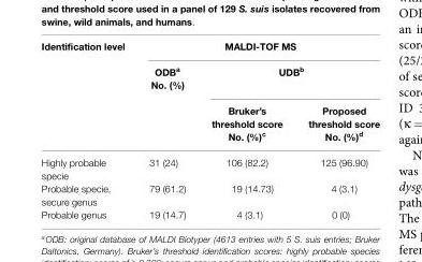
<table><thead><tr><td rowspan="4">Identification level</td><td colspan="3">MALDI-TOF MS</td></tr><tr><td rowspan="3">ODB<sup>a</sup> No. (%)</td><td colspan="2">UDB<sup>b</sup></td></tr><tr><td rowspan="2">Bruker’s threshold score No. (%)<sup>c</sup></td><td rowspan="2">Proposed threshold score No. (%)<sup>d</sup></td></tr><tr></tr></thead><tbody><tr><td>Highly probable specie</td><td>31 (24)</td><td>106 (82.2)</td><td>125 (96.90)</td></tr><tr><td>Probable specie, secure genus</td><td>79 (61.2)</td><td>19 (14.73)</td><td>4 (3.1)</td></tr><tr><td>Probable genus</td><td>19 (14.7)</td><td>4 (3.1)</td><td>0 (0)</td></tr></tbody></table>